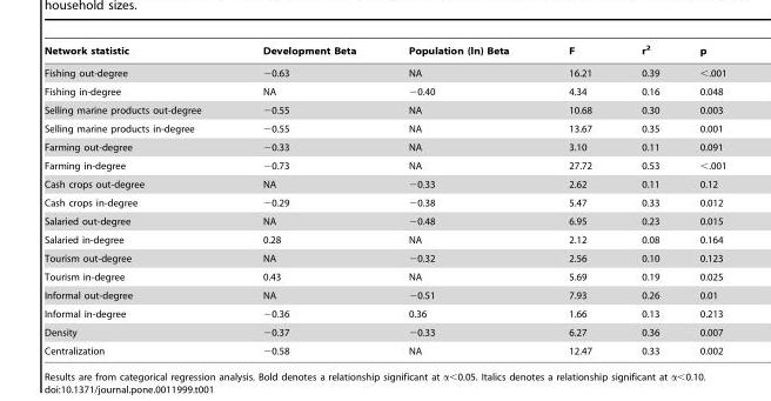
<table><thead><tr><td>Network statistic</td><td>Development Beta</td><td>Population (ln) Beta</td><td>F</td><td>r<sup>2</sup></td><td>p</td></tr></thead><tbody><tr><td>Fishing out-degree</td><td>−0.63</td><td>NA</td><td>16.21</td><td>0.39</td><td>&lt;.001</td></tr><tr><td>Fishing in-degree</td><td>NA</td><td>−0.40</td><td>4.34</td><td>0.16</td><td>0.048</td></tr><tr><td>Selling marine products out-degree</td><td>−0.55</td><td>NA</td><td>10.68</td><td>0.30</td><td>0.003</td></tr><tr><td>Selling marine products in-degree</td><td>−0.55</td><td>NA</td><td>13.67</td><td>0.35</td><td>0.001</td></tr><tr><td>Farming out-degree</td><td>−0.33</td><td>NA</td><td>3.10</td><td>0.11</td><td>0.091</td></tr><tr><td>Farming in-degree</td><td>−0.73</td><td>NA</td><td>27.72</td><td>0.53</td><td>&lt;.001</td></tr><tr><td>Cash crops out-degree</td><td>NA</td><td>−0.33</td><td>2.62</td><td>0.11</td><td>0.12</td></tr><tr><td>Cash crops in-degree</td><td>−0.29</td><td>−0.38</td><td>5.47</td><td>0.33</td><td>0.012</td></tr><tr><td>Salaried out-degree</td><td>NA</td><td>−0.48</td><td>6.95</td><td>0.23</td><td>0.015</td></tr><tr><td>Salaried in-degree</td><td>0.28</td><td>NA</td><td>2.12</td><td>0.08</td><td>0.164</td></tr><tr><td>Tourism out-degree</td><td>NA</td><td>−0.32</td><td>2.56</td><td>0.10</td><td>0.123</td></tr><tr><td>Tourism in-degree</td><td>0.43</td><td>NA</td><td>5.69</td><td>0.19</td><td>0.025</td></tr><tr><td>Informal out-degree</td><td>NA</td><td>−0.51</td><td>7.93</td><td>0.26</td><td>0.01</td></tr><tr><td>Informal in-degree</td><td>−0.36</td><td>0.36</td><td>1.66</td><td>0.13</td><td>0.213</td></tr><tr><td>Density</td><td>−0.37</td><td>−0.33</td><td>6.27</td><td>0.36</td><td>0.007</td></tr><tr><td>Centralization</td><td>−0.58</td><td>NA</td><td>12.47</td><td>0.33</td><td>0.002</td></tr></tbody></table>